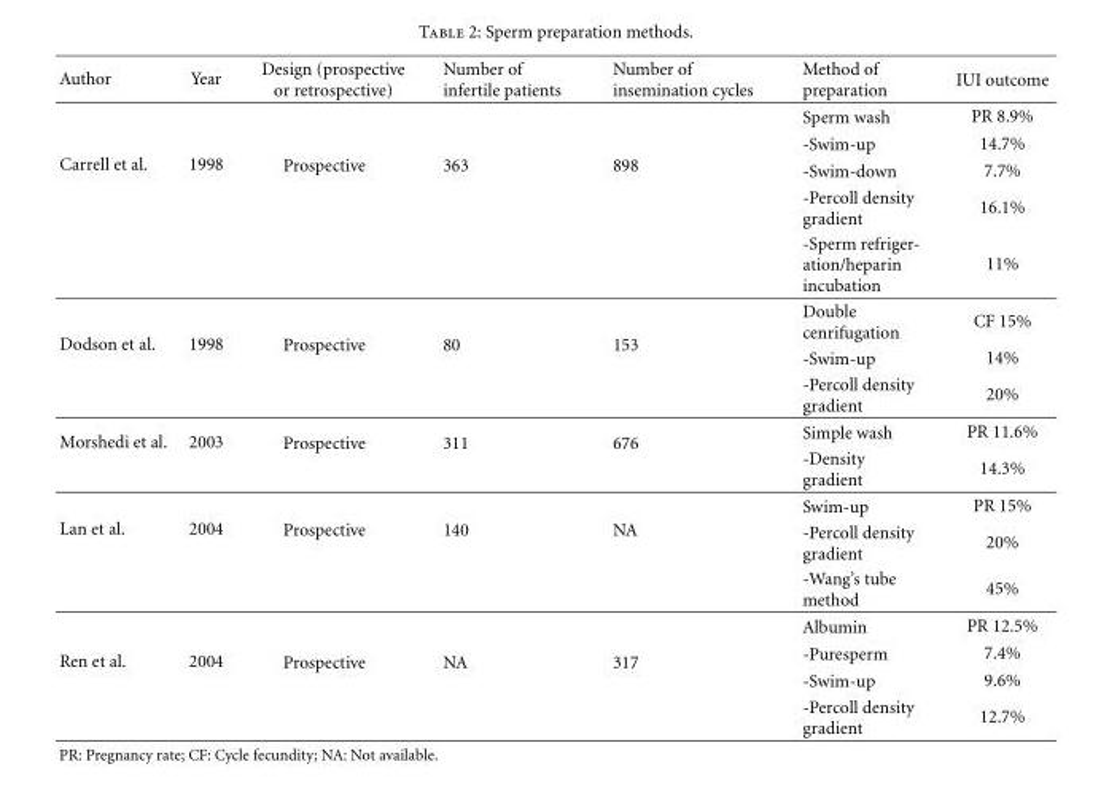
<table><thead><tr><td>Author</td><td>Year</td><td>Design (prospective or retrospective)</td><td>Number of infertile patients</td><td>Number of insemination cycles</td><td>Method of preparation</td><td>IUI outcome</td></tr></thead><tbody><tr><td rowspan="5">Carrell et al.</td><td rowspan="5">1998</td><td rowspan="5">Prospective</td><td rowspan="5">363</td><td rowspan="5">898</td><td>Sperm wash</td><td>PR 8.9%</td></tr><tr><td>-Swim-up</td><td>14.7%</td></tr><tr><td>-Swim-down</td><td>7.7%</td></tr><tr><td>-Percoll density gradient</td><td>16.1%</td></tr><tr><td>-Sperm refriger- ation/heparin incubation</td><td>11%</td></tr><tr><td rowspan="3">Dodson et al.</td><td rowspan="3">1998</td><td rowspan="3">Prospective</td><td rowspan="3">80</td><td rowspan="3">153</td><td>Double cenrifugation</td><td>CF 15%</td></tr><tr><td>-Swim-up</td><td>14%</td></tr><tr><td>-Percoll density gradient</td><td>20%</td></tr><tr><td rowspan="2">Morshedi et al.</td><td rowspan="2">2003</td><td rowspan="2">Prospective</td><td rowspan="2">311</td><td rowspan="2">676</td><td>Simple wash</td><td>PR 11.6%</td></tr><tr><td>-Density gradient</td><td>14.3%</td></tr><tr><td rowspan="3">Lan et al.</td><td rowspan="3">2004</td><td rowspan="3">Prospective</td><td rowspan="3">140</td><td rowspan="3">NA</td><td>Swim-up</td><td>PR 15%</td></tr><tr><td>-Percoll density gradient</td><td>20%</td></tr><tr><td>-Wang’s tube method</td><td>45%</td></tr><tr><td rowspan="4">Ren et al.</td><td rowspan="4">2004</td><td rowspan="4">Prospective</td><td rowspan="4">NA</td><td rowspan="4">317</td><td>Albumin</td><td>PR 12.5%</td></tr><tr><td>-Puresperm</td><td>7.4%</td></tr><tr><td>-Swim-up</td><td>9.6%</td></tr><tr><td>-Percoll density gradient</td><td>12.7%</td></tr></tbody></table>